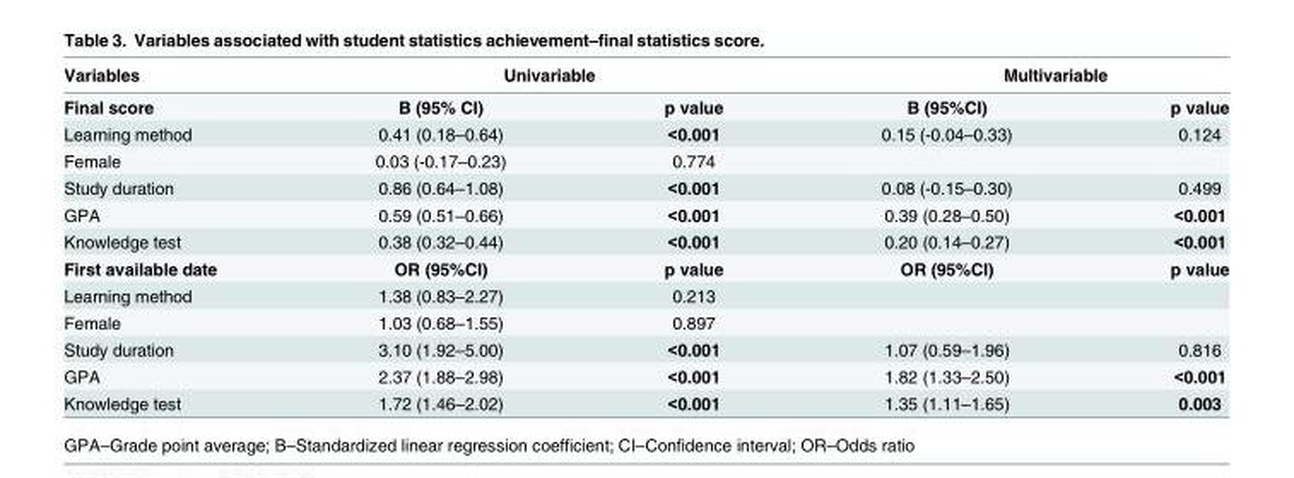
<table><thead><tr><td rowspan="2">Variables Final score</td><td colspan="2">Univariable</td><td colspan="2">Multivariable</td></tr><tr><td>B (95% CI)</td><td>p value</td><td>B (95%CI)</td><td>p value</td></tr></thead><tbody><tr><td>Learning method</td><td>0.41 (0.18–0.64)</td><td>&lt;0.001</td><td>0.15 (-0.04–0.33)</td><td>0.124</td></tr><tr><td>Female</td><td>0.03 (-0.17–0.23)</td><td>0.774</td><td></td><td></td></tr><tr><td>Study duration</td><td>0.86 (0.64–1.08)</td><td>&lt;0.001</td><td>0.08 (-0.15–0.30)</td><td>0.499</td></tr><tr><td>GPA</td><td>0.59 (0.51–0.66)</td><td>&lt;0.001</td><td>0.39 (0.28–0.50)</td><td>&lt;0.001</td></tr><tr><td>Knowledge test</td><td>0.38 (0.32–0.44)</td><td>&lt;0.001</td><td>0.20 (0.14–0.27)</td><td>&lt;0.001</td></tr><tr><td>First available date</td><td>OR (95%CI)</td><td>p value</td><td>OR (95%CI)</td><td>p value</td></tr><tr><td>Learning method</td><td>1.38 (0.83–2.27)</td><td>0.213</td><td></td><td></td></tr><tr><td>Female</td><td>1.03 (0.68–1.55)</td><td>0.897</td><td></td><td></td></tr><tr><td>Study duration</td><td>3.10 (1.92–5.00)</td><td>&lt;0.001</td><td>1.07 (0.59–1.96)</td><td>0.816</td></tr><tr><td>GPA</td><td>2.37 (1.88–2.98)</td><td>&lt;0.001</td><td>1.82 (1.33–2.50)</td><td>&lt;0.001</td></tr><tr><td>Knowledge test</td><td>1.72 (1.46–2.02)</td><td>&lt;0.001</td><td>1.35 (1.11–1.65)</td><td>0.003</td></tr></tbody></table>